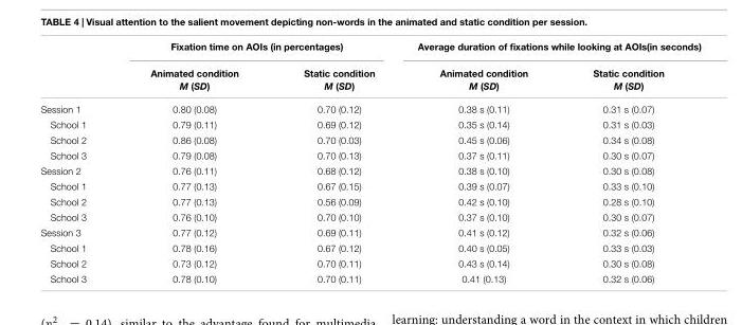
<table><thead><tr><td rowspan="2"></td><td colspan="2">Fixation time on AOIs (in percentages)</td><td colspan="2">Average duration of fixations while looking at AOIs(in seconds)</td></tr><tr><td>Animated condition M (SD)</td><td>Static condition M (SD)</td><td>Animated condition M (SD)</td><td>Static condition M (SD)</td></tr></thead><tbody><tr><td>Session 1</td><td>0.80 (0.08)</td><td>0.70 (0.12)</td><td>0.38 s (0.11)</td><td>0.31 s (0.07)</td></tr><tr><td>School 1</td><td>0.79 (0.11)</td><td>0.69 (0.12)</td><td>0.35 s (0.14)</td><td>0.31 s (0.03)</td></tr><tr><td>School 2</td><td>0.86 (0.08)</td><td>0.70 (0.03)</td><td>0.45 s (0.06)</td><td>0.34 s (0.08)</td></tr><tr><td>School 3</td><td>0.79 (0.08)</td><td>0.70 (0.13)</td><td>0.37 s (0.11)</td><td>0.30 s (0.07)</td></tr><tr><td>Session 2</td><td>0.76 (0.11)</td><td>0.68 (0.12)</td><td>0.38 s (0.10)</td><td>0.30 s (0.08)</td></tr><tr><td>School 1</td><td>0.77 (0.13)</td><td>0.67 (0.15)</td><td>0.39 s (0.07)</td><td>0.33 s (0.10)</td></tr><tr><td>School 2</td><td>0.77 (0.13)</td><td>0.56 (0.09)</td><td>0.42 s (0.10)</td><td>0.28 s (0.10)</td></tr><tr><td>School 3</td><td>0.76 (0.10)</td><td>0.70 (0.10)</td><td>0.37 s (0.10)</td><td>0.30 s (0.07)</td></tr><tr><td>Session 3</td><td>0.77 (0.12)</td><td>0.69 (0.11)</td><td>0.41 s (0.12)</td><td>0.32 s (0.06)</td></tr><tr><td>School 1</td><td>0.78 (0.16)</td><td>0.67 (0.12)</td><td>0.40 s (0.05)</td><td>0.33 s (0.03)</td></tr><tr><td>School 2</td><td>0.73 (0.12)</td><td>0.70 (0.11)</td><td>0.43 s (0.14)</td><td>0.30 s (0.08)</td></tr><tr><td>School 3</td><td>0.78 (0.10)</td><td>0.70 (0.11)</td><td>0.41 (0.13)</td><td>0.32 s (0.06)</td></tr></tbody></table>